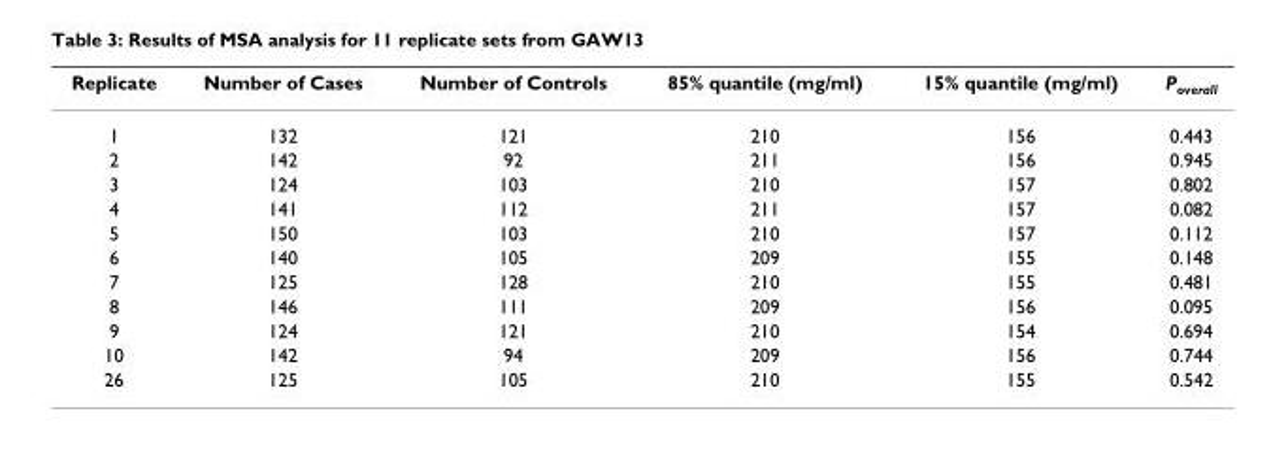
<table><thead><tr><td>Replicate</td><td>Number of Cases</td><td>Number of Controls</td><td>85% quantile (mg/ml)</td><td>15% quantile (mg/ml)</td><td>Poverall</td></tr></thead><tbody><tr><td>1</td><td>132</td><td>121</td><td>210</td><td>156</td><td>0.443</td></tr><tr><td>2</td><td>142</td><td>92</td><td>211</td><td>156</td><td>0.945</td></tr><tr><td>3</td><td>124</td><td>103</td><td>210</td><td>157</td><td>0.802</td></tr><tr><td>4</td><td>141</td><td>112</td><td>211</td><td>157</td><td>0.082</td></tr><tr><td>5</td><td>150</td><td>103</td><td>210</td><td>157</td><td>0.112</td></tr><tr><td>6</td><td>140</td><td>105</td><td>209</td><td>155</td><td>0.148</td></tr><tr><td>7</td><td>125</td><td>128</td><td>210</td><td>155</td><td>0.481</td></tr><tr><td>8</td><td>146</td><td>111</td><td>209</td><td>156</td><td>0.095</td></tr><tr><td>9</td><td>124</td><td>121</td><td>210</td><td>154</td><td>0.694</td></tr><tr><td>10</td><td>142</td><td>94</td><td>209</td><td>156</td><td>0.744</td></tr><tr><td>26</td><td>125</td><td>105</td><td>210</td><td>155</td><td>0.542</td></tr></tbody></table>